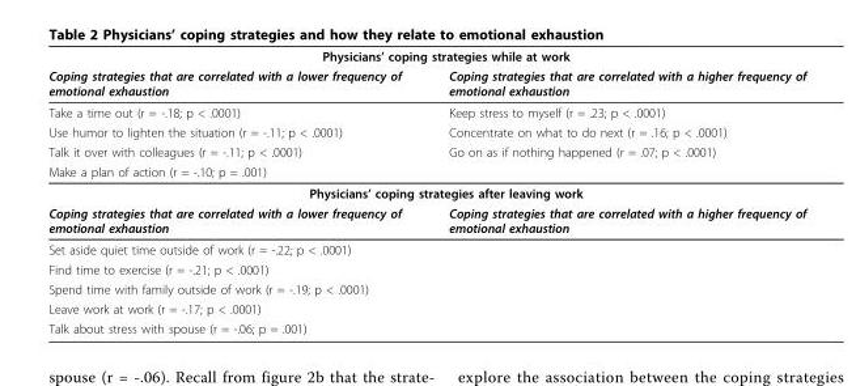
<table><thead><tr><td colspan="2">Physicians’ coping strategies while at work</td></tr><tr><td>Coping strategies that are correlated with a lower frequency of emotional exhaustion</td><td>Coping strategies that are correlated with a higher frequency of emotional exhaustion</td></tr></thead><tbody><tr><td>Take a time out (r = -.18; p &lt; .0001)</td><td>Keep stress to myself (r = .23; p &lt; .0001)</td></tr><tr><td>Use humor to lighten the situation (r = -.11; p &lt; .0001)</td><td>Concentrate on what to do next (r = .16; p &lt; .0001)</td></tr><tr><td>Talk it over with colleagues (r = -.11; p &lt; .0001)</td><td>Go on as if nothing happened (r = .07; p &lt; .0001)</td></tr><tr><td colspan="2">Make a plan of action (r = -.10; p = .001)</td></tr><tr><td colspan="2">Physicians’ coping strategies after leaving work</td></tr><tr><td>Coping strategies that are correlated with a lower frequency of emotional exhaustion</td><td>Coping strategies that are correlated with a higher frequency of emotional exhaustion</td></tr><tr><td colspan="2">Set aside quiet time outside of work (r = -.22; p &lt; .0001)</td></tr><tr><td colspan="2">Find time to exercise (r = -.21; p &lt; .0001)</td></tr><tr><td colspan="2">Spend time with family outside of work (r = -.19; p &lt; .0001)</td></tr><tr><td colspan="2">Leave work at work (r = -.17; p &lt; .0001)</td></tr><tr><td>Talk about stress with spouse (r = -.06; p = .001)</td><td></td></tr></tbody></table>